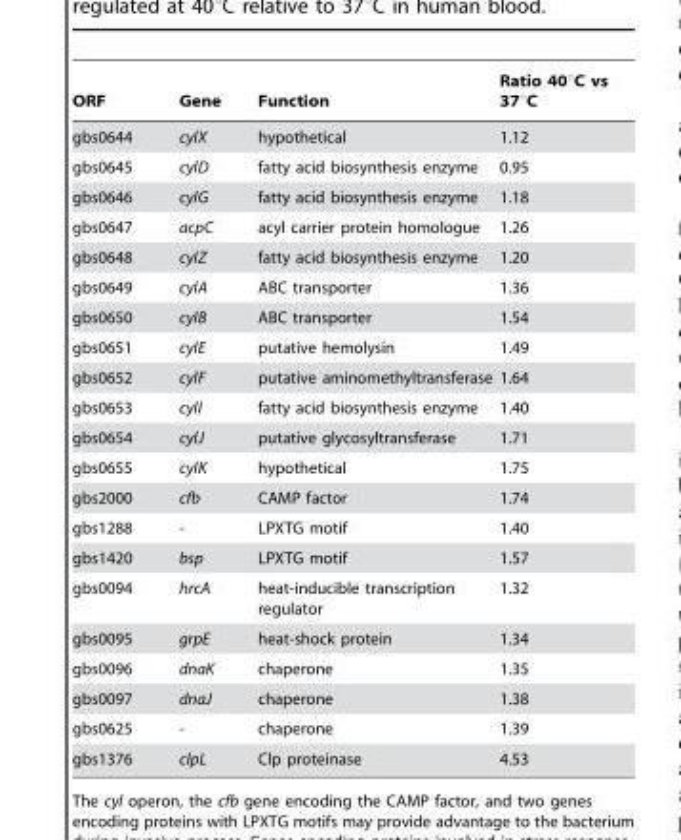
<table><thead><tr><td>ORF</td><td>Gene</td><td>Function</td><td>Ratio 40°C vs 37°C</td></tr></thead><tbody><tr><td>gbs0644</td><td>cylX</td><td>hypothetical</td><td>1.12</td></tr><tr><td>gbs0645</td><td>cylD</td><td>fatty acid biosynthesis enzyme</td><td>0.95</td></tr><tr><td>gbs0646</td><td>cylG</td><td>fatty acid biosynthesis enzyme</td><td>1.18</td></tr><tr><td>gbs0647</td><td>acpC</td><td>acyl carrier protein homologue</td><td>1.26</td></tr><tr><td>gbs0648</td><td>cylZ</td><td>fatty acid biosynthesis enzyme</td><td>1.20</td></tr><tr><td>gbs0649</td><td>cylA</td><td>ABC transporter</td><td>1.36</td></tr><tr><td>gbs0650</td><td>cylB</td><td>ABC transporter</td><td>1.54</td></tr><tr><td>gbs0651</td><td>cylE</td><td>putative hemolysin</td><td>1.49</td></tr><tr><td>gbs0652</td><td>cylF</td><td>putative aminomethyltransferase</td><td>1.64</td></tr><tr><td>gbs0653</td><td>cylI</td><td>fatty acid biosynthesis enzyme</td><td>1.40</td></tr><tr><td>gbs0654</td><td>cylJ</td><td>putative glycosyltransferase</td><td>1.71</td></tr><tr><td>gbs0655</td><td>cylK</td><td>hypothetical</td><td>1.75</td></tr><tr><td>gbs2000</td><td>cfb</td><td>CAMP factor</td><td>1.74</td></tr><tr><td>gbs1288</td><td>-</td><td>LPXTG motif</td><td>1.40</td></tr><tr><td>gbs1420</td><td>bsp</td><td>LPXTG motif</td><td>1.57</td></tr><tr><td>gbs0094</td><td>hrcA</td><td>heat-inducible transcription regulator</td><td>1.32</td></tr><tr><td>gbs0095</td><td>grpE</td><td>heat-shock protein</td><td>1.34</td></tr><tr><td>gbs0096</td><td>dnaK</td><td>chaperone</td><td>1.35</td></tr><tr><td>gbs0097</td><td>dnaJ</td><td>chaperone</td><td>1.38</td></tr><tr><td>gbs0625</td><td>-</td><td>chaperone</td><td>1.39</td></tr><tr><td>gbs1376</td><td>clpL</td><td>Clp proteinase</td><td>4.53</td></tr></tbody></table>